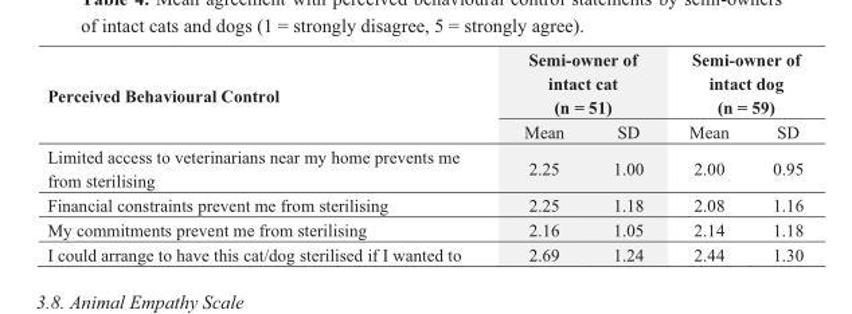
<table><thead><tr><td rowspan="2">Perceived Behavioural Control</td><td colspan="2">Semi-owner of intact cat (n = 51)</td><td colspan="2">Semi-owner of intact dog (n = 59)</td></tr><tr><td>Mean</td><td>SD</td><td>Mean</td><td>SD</td></tr></thead><tbody><tr><td>Limited access to veterinarians near my home prevents me from sterilising</td><td>2.25</td><td>1.00</td><td>2.00</td><td>0.95</td></tr><tr><td>Financial constraints prevent me from sterilising</td><td>2.25</td><td>1.18</td><td>2.08</td><td>1.16</td></tr><tr><td>My commitments prevent me from sterilising</td><td>2.16</td><td>1.05</td><td>2.14</td><td>1.18</td></tr><tr><td>I could arrange to have this cat/dog sterilised if I wanted to</td><td>2.69</td><td>1.24</td><td>2.44</td><td>1.30</td></tr></tbody></table>